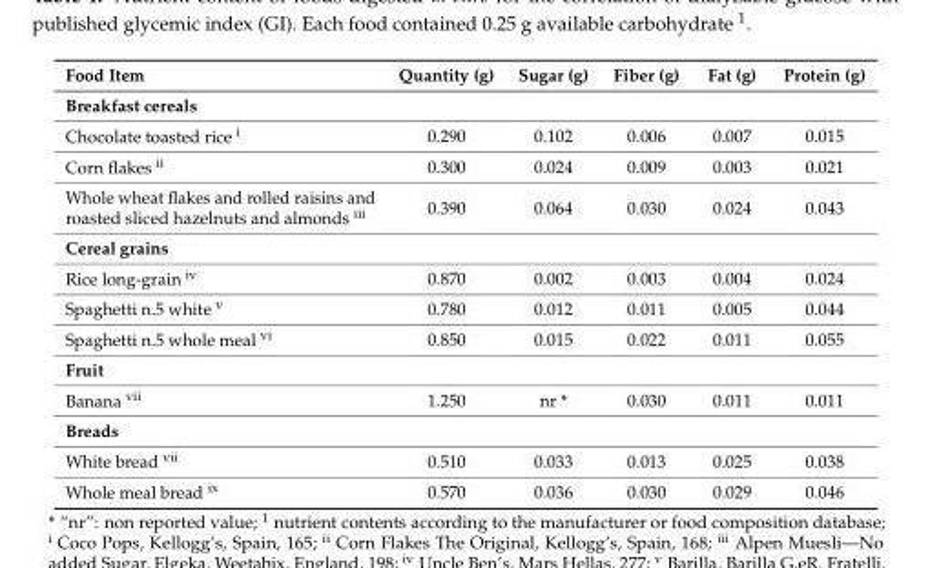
<table><thead><tr><td>Food Item</td><td>Quantity (g)</td><td>Sugar (g)</td><td>Fiber (g)</td><td>Fat (g)</td><td>Protein (g)</td></tr></thead><tbody><tr><td colspan="6">Breakfast cereals</td></tr><tr><td>Chocolate toasted rice <sup>i</sup></td><td>0.290</td><td>0.102</td><td>0.006</td><td>0.007</td><td>0.015</td></tr><tr><td>Corn flakes <sup>ii</sup></td><td>0.300</td><td>0.024</td><td>0.009</td><td>0.003</td><td>0.021</td></tr><tr><td>Whole wheat flakes and rolled raisins and roasted sliced hazelnuts and almonds <sup>iii</sup></td><td>0.390</td><td>0.064</td><td>0.030</td><td>0.024</td><td>0.043</td></tr><tr><td colspan="6">Cereal grains</td></tr><tr><td>Rice long-grain <sup>iv</sup></td><td>0.870</td><td>0.002</td><td>0.003</td><td>0.004</td><td>0.024</td></tr><tr><td>Spaghetti n.5 white <sup>v</sup></td><td>0.780</td><td>0.012</td><td>0.011</td><td>0.005</td><td>0.044</td></tr><tr><td>Spaghetti n.5 whole meal <sup>vi</sup></td><td>0.850</td><td>0.015</td><td>0.022</td><td>0.011</td><td>0.055</td></tr><tr><td colspan="6">Fruit</td></tr><tr><td>Banana <sup>vii</sup></td><td>1.250</td><td>nr *</td><td>0.030</td><td>0.011</td><td>0.011</td></tr><tr><td colspan="6">Breads</td></tr><tr><td>White bread <sup>vii</sup></td><td>0.510</td><td>0.033</td><td>0.013</td><td>0.025</td><td>0.038</td></tr><tr><td>Whole meal bread <sup>ix</sup></td><td>0.570</td><td>0.036</td><td>0.030</td><td>0.029</td><td>0.046</td></tr></tbody></table>